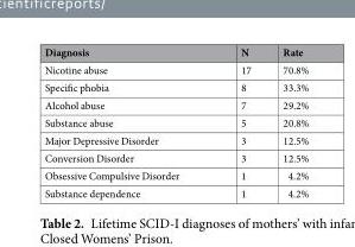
<table><thead><tr><td>Diagnosis</td><td>N</td><td>Rate</td></tr></thead><tbody><tr><td>Nicotine abuse</td><td>17</td><td>70.8%</td></tr><tr><td>Specific phobia</td><td>8</td><td>33.3%</td></tr><tr><td>Alcohol abuse</td><td>7</td><td>29.2%</td></tr><tr><td>Substance abuse</td><td>5</td><td>20.8%</td></tr><tr><td>Major Depressive Disorder</td><td>3</td><td>12.5%</td></tr><tr><td>Conversion Disorder</td><td>3</td><td>12.5%</td></tr><tr><td>Obsessive Compulsive Disorder</td><td>1</td><td>4.2%</td></tr><tr><td>Substance dependence</td><td>1</td><td>4.2%</td></tr></tbody></table>